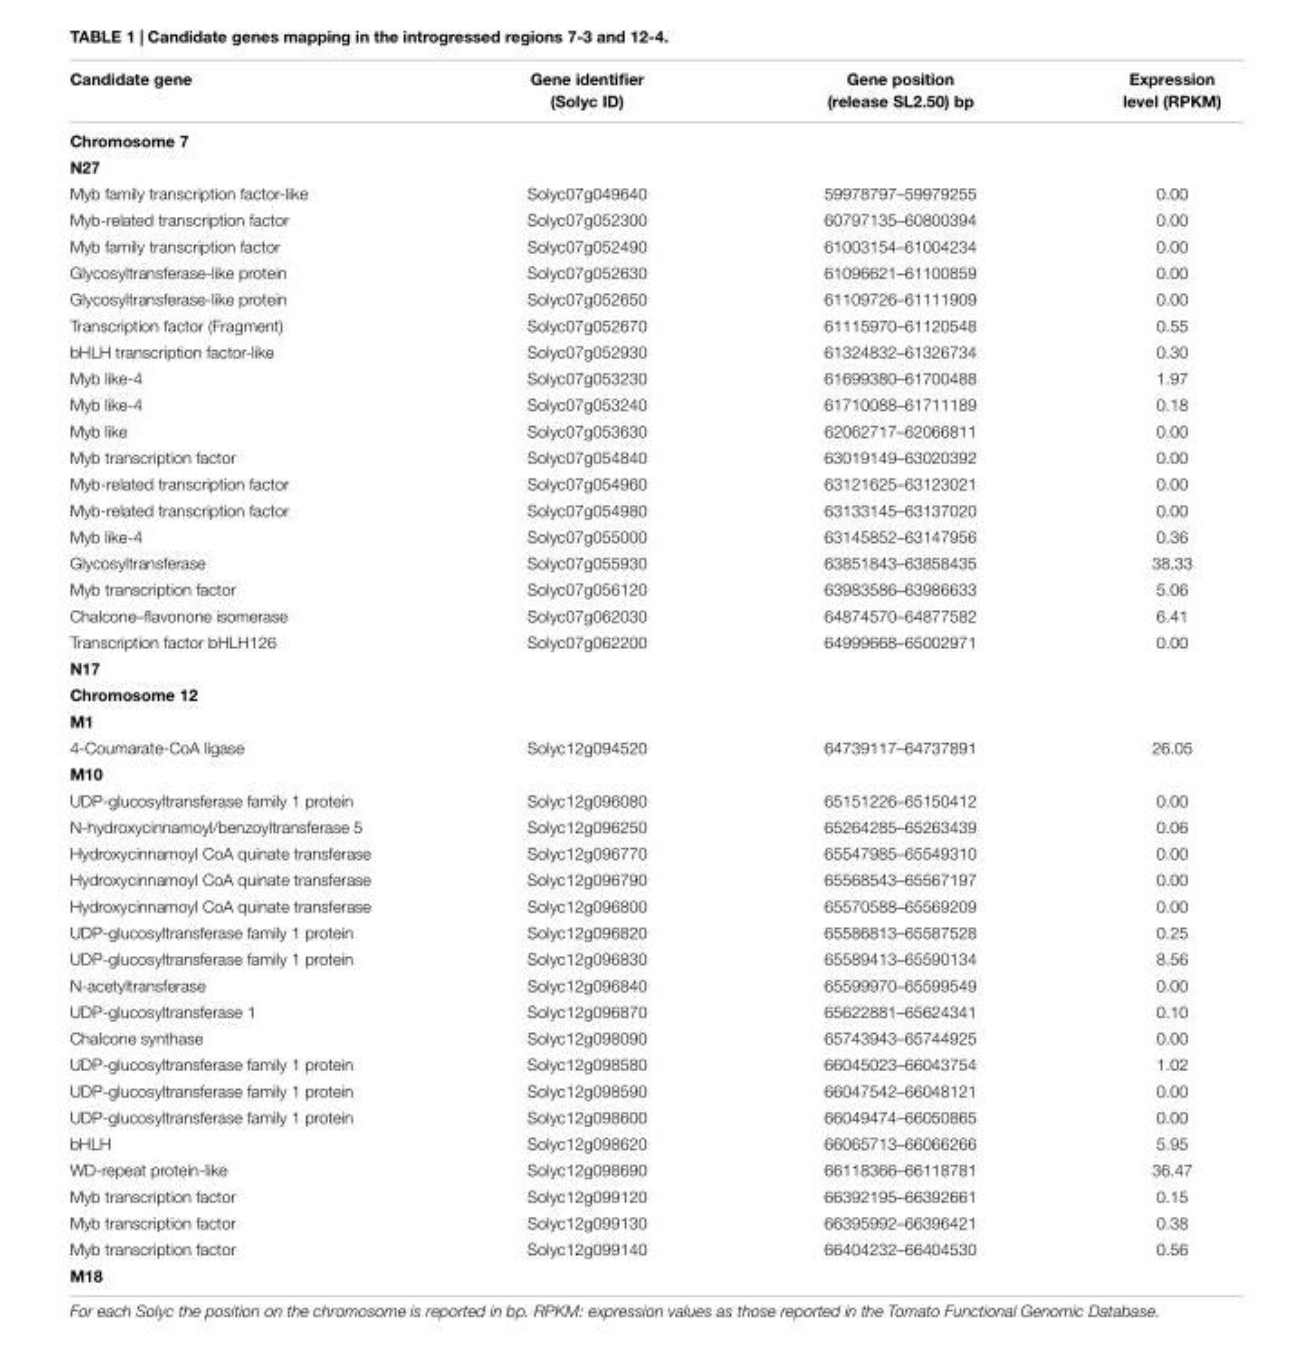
<table><thead><tr><td>Candidate gene</td><td>Gene identifier (Solyc ID)</td><td>Gene position (release SL2.50) bp</td><td>Expression level (RPKM)</td></tr></thead><tbody><tr><td colspan="4">Chromosome 7</td></tr><tr><td colspan="4">N27</td></tr><tr><td>Myb family transcription factor-like</td><td>Solyc07g049640</td><td>59978797–59979255</td><td>0.00</td></tr><tr><td>Myb-related transcription factor</td><td>Solyc07g052300</td><td>60797135–60800394</td><td>0.00</td></tr><tr><td>Myb family transcription factor</td><td>Solyc07g052490</td><td>61003154–61004234</td><td>0.00</td></tr><tr><td>Glycosyltransferase-like protein</td><td>Solyc07g052630</td><td>61096621–61100859</td><td>0.00</td></tr><tr><td>Glycosyltransferase-like protein</td><td>Solyc07g052650</td><td>61109726–61111909</td><td>0.00</td></tr><tr><td>Transcription factor (Fragment)</td><td>Solyc07g052670</td><td>61115970–61120548</td><td>0.55</td></tr><tr><td>bHLH transcription factor-like</td><td>Solyc07g052930</td><td>61324832–61326734</td><td>0.30</td></tr><tr><td>Myb like-4</td><td>Solyc07g053230</td><td>61699380–61700488</td><td>1.97</td></tr><tr><td>Myb like-4</td><td>Solyc07g053240</td><td>61710088–61711189</td><td>0.18</td></tr><tr><td>Myb like</td><td>Solyc07g053630</td><td>62062717–62066811</td><td>0.00</td></tr><tr><td>Myb transcription factor</td><td>Solyc07g054840</td><td>63019149–63020392</td><td>0.00</td></tr><tr><td>Myb-related transcription factor</td><td>Solyc07g054960</td><td>63121625–63123021</td><td>0.00</td></tr><tr><td>Myb-related transcription factor</td><td>Solyc07g054980</td><td>63133145–63137020</td><td>0.00</td></tr><tr><td>Myb like-4</td><td>Solyc07g055000</td><td>63145852–63147956</td><td>0.36</td></tr><tr><td>Glycosyltransferase</td><td>Solyc07g055930</td><td>63851843–63858435</td><td>38.33</td></tr><tr><td>Myb transcription factor</td><td>Solyc07g056120</td><td>63983586–63986633</td><td>5.06</td></tr><tr><td>Chalcone–flavonone isomerase</td><td>Solyc07g062030</td><td>64874570–64877582</td><td>6.41</td></tr><tr><td>Transcription factor bHLH126</td><td>Solyc07g062200</td><td>64999668–65002971</td><td>0.00</td></tr><tr><td colspan="4">N17</td></tr><tr><td colspan="4">Chromosome 12</td></tr><tr><td colspan="4">M1</td></tr><tr><td>4-Coumarate-CoA ligase</td><td>Solyc12g094520</td><td>64739117–64737891</td><td>26.05</td></tr><tr><td colspan="4">M10</td></tr><tr><td>UDP-glucosyltransferase family 1 protein</td><td>Solyc12g096080</td><td>65151226–65150412</td><td>0.00</td></tr><tr><td>N-hydroxycinnamoyl/benzoyltransferase 5</td><td>Solyc12g096250</td><td>65264285–65263439</td><td>0.06</td></tr><tr><td>Hydroxycinnamoyl CoA quinate transferase</td><td>Solyc12g096770</td><td>65547985–65549310</td><td>0.00</td></tr><tr><td>Hydroxycinnamoyl CoA quinate transferase</td><td>Solyc12g096790</td><td>65568543–65567197</td><td>0.00</td></tr><tr><td>Hydroxycinnamoyl CoA quinate transferase</td><td>Solyc12g096800</td><td>65570588–65569209</td><td>0.00</td></tr><tr><td>UDP-glucosyltransferase family 1 protein</td><td>Solyc12g096820</td><td>65586813–65587528</td><td>0.25</td></tr><tr><td>UDP-glucosyltransferase family 1 protein</td><td>Solyc12g096830</td><td>65589413–65590134</td><td>8.56</td></tr><tr><td>N-acetyltransferase</td><td>Solyc12g096840</td><td>65599970–65599549</td><td>0.00</td></tr><tr><td>UDP-glucosyltransferase 1</td><td>Solyc12g096870</td><td>65622881–65624341</td><td>0.10</td></tr><tr><td>Chalcone synthase</td><td>Solyc12g098090</td><td>65743943–65744925</td><td>0.00</td></tr><tr><td>UDP-glucosyltransferase family 1 protein</td><td>Solyc12g098580</td><td>66045023–66043754</td><td>1.02</td></tr><tr><td>UDP-glucosyltransferase family 1 protein</td><td>Solyc12g098590</td><td>66047542–66048121</td><td>0.00</td></tr><tr><td>UDP-glucosyltransferase family 1 protein</td><td>Solyc12g098600</td><td>66049474–66050865</td><td>0.00</td></tr><tr><td>bHLH</td><td>Solyc12g098620</td><td>66065713–66066266</td><td>5.95</td></tr><tr><td>WD-repeat protein-like</td><td>Solyc12g098690</td><td>66118366–66118781</td><td>36.47</td></tr><tr><td>Myb transcription factor</td><td>Solyc12g099120</td><td>66392195–66392661</td><td>0.15</td></tr><tr><td>Myb transcription factor</td><td>Solyc12g099130</td><td>66395992–66396421</td><td>0.38</td></tr><tr><td>Myb transcription factor</td><td>Solyc12g099140</td><td>66404232–66404530</td><td>0.56</td></tr><tr><td>M18</td><td></td><td></td><td></td></tr></tbody></table>